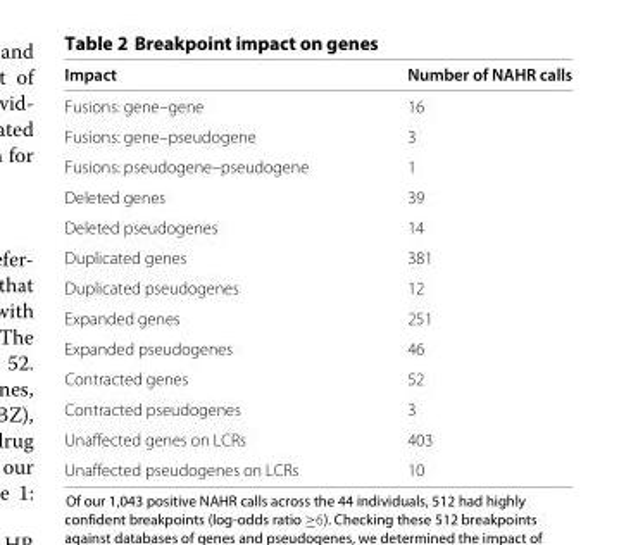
<table><thead><tr><td>Impact</td><td>Number of NAHR calls</td></tr></thead><tbody><tr><td>Fusions: gene–gene</td><td>16</td></tr><tr><td>Fusions: gene–pseudogene</td><td>3</td></tr><tr><td>Fusions: pseudogene–pseudogene</td><td>1</td></tr><tr><td>Deleted genes</td><td>39</td></tr><tr><td>Deleted pseudogenes</td><td>14</td></tr><tr><td>Duplicated genes</td><td>381</td></tr><tr><td>Duplicated pseudogenes</td><td>12</td></tr><tr><td>Expanded genes</td><td>251</td></tr><tr><td>Expanded pseudogenes</td><td>46</td></tr><tr><td>Contracted genes</td><td>52</td></tr><tr><td>Contracted pseudogenes</td><td>3</td></tr><tr><td>Unaffected genes on LCRs</td><td>403</td></tr><tr><td>Unaffected pseudogenes on LCRs</td><td>10</td></tr></tbody></table>